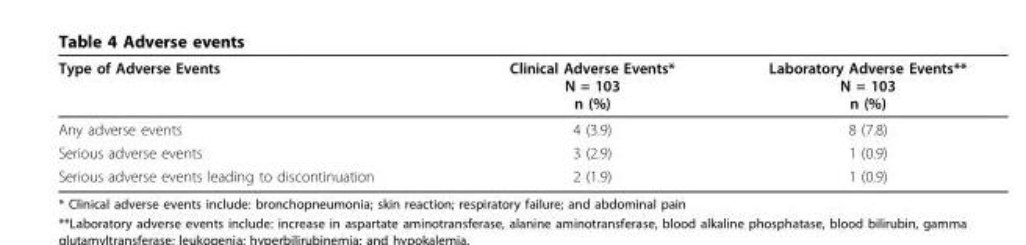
<table><thead><tr><td>Type of Adverse Events</td><td>Clinical Adverse Events* N = 103 n (%)</td><td>Laboratory Adverse Events** N = 103 n (%)</td></tr></thead><tbody><tr><td>Any adverse events</td><td>4 (3.9)</td><td>8 (7.8)</td></tr><tr><td>Serious adverse events</td><td>3 (2.9)</td><td>1 (0.9)</td></tr><tr><td>Serious adverse events leading to discontinuation</td><td>2 (1.9)</td><td>1 (0.9)</td></tr></tbody></table>